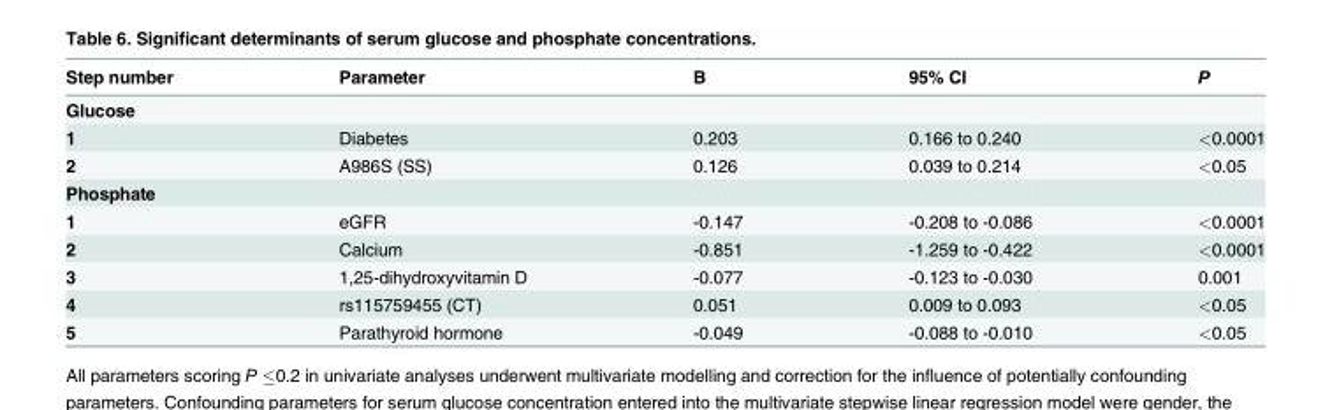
<table><thead><tr><td>Step number</td><td>Parameter</td><td>B</td><td>95% CI</td><td>P</td></tr></thead><tbody><tr><td colspan="5">Glucose</td></tr><tr><td>1</td><td>Diabetes</td><td>0.203</td><td>0.166 to 0.240</td><td>&lt;0.0001</td></tr><tr><td>2</td><td>A986S (SS)</td><td>0.126</td><td>0.039 to 0.214</td><td>&lt;0.05</td></tr><tr><td colspan="5">Phosphate</td></tr><tr><td>1</td><td>eGFR</td><td>-0.147</td><td>-0.208 to -0.086</td><td>&lt;0.0001</td></tr><tr><td>2</td><td>Calcium</td><td>-0.851</td><td>-1.259 to -0.422</td><td>&lt;0.0001</td></tr><tr><td>3</td><td>1,25-dihydroxyvitamin D</td><td>-0.077</td><td>-0.123 to -0.030</td><td>0.001</td></tr><tr><td>4</td><td>rs115759455 (CT)</td><td>0.051</td><td>0.009 to 0.093</td><td>&lt;0.05</td></tr><tr><td>5</td><td>Parathyroid hormone</td><td>-0.049</td><td>-0.088 to -0.010</td><td>&lt;0.05</td></tr></tbody></table>